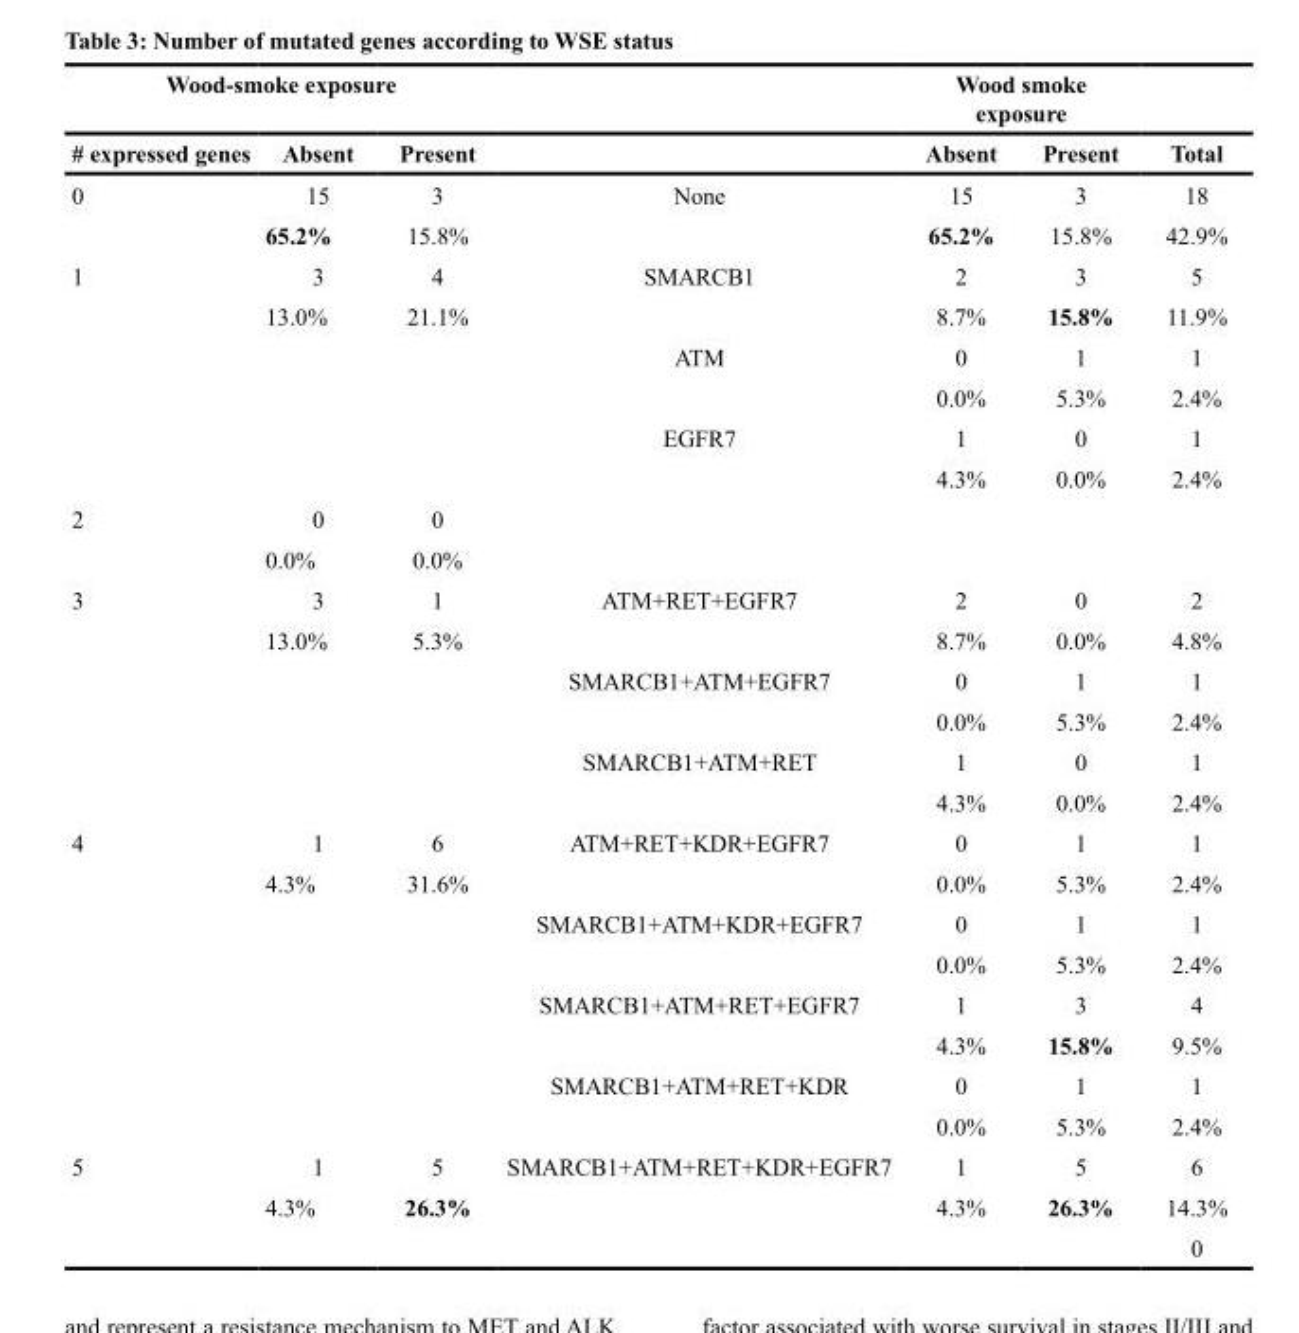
<table><thead><tr><td colspan="3">Wood-smoke exposure</td><td rowspan="2"></td><td colspan="2">Wood smoke exposure</td><td rowspan="2">Total</td></tr><tr><td># expressed genes</td><td>Absent</td><td>Present</td><td>Absent</td><td>Present</td></tr></thead><tbody><tr><td rowspan="2">0</td><td>15</td><td>3</td><td rowspan="2">None</td><td>15</td><td>3</td><td>18</td></tr><tr><td>65.2%</td><td>15.8%</td><td>65.2%</td><td>15.8%</td><td>42.9%</td></tr><tr><td rowspan="6">1</td><td>3</td><td>4</td><td rowspan="2">SMARCB1</td><td>2</td><td>3</td><td>5</td></tr><tr><td>13.0%</td><td>21.1%</td><td>8.7%</td><td>15.8%</td><td>11.9%</td></tr><tr><td></td><td></td><td rowspan="2">ATM</td><td>0</td><td>1</td><td>1</td></tr><tr><td></td><td></td><td>0.0%</td><td>5.3%</td><td>2.4%</td></tr><tr><td></td><td></td><td rowspan="2">EGFR7</td><td>1</td><td>0</td><td>1</td></tr><tr><td></td><td></td><td>4.3%</td><td>0.0%</td><td>2.4%</td></tr><tr><td rowspan="2">2</td><td>0</td><td>0</td><td></td><td></td><td></td><td></td></tr><tr><td>0.0%</td><td>0.0%</td><td></td><td></td><td></td><td></td></tr><tr><td rowspan="6">3</td><td>3</td><td>1</td><td rowspan="2">ATM+RET+EGFR7</td><td>2</td><td>0</td><td>2</td></tr><tr><td>13.0%</td><td>5.3%</td><td>8.7%</td><td>0.0%</td><td>4.8%</td></tr><tr><td></td><td></td><td rowspan="2">SMARCB1+ATM+EGFR7</td><td>0</td><td>1</td><td>1</td></tr><tr><td></td><td></td><td>0.0%</td><td>5.3%</td><td>2.4%</td></tr><tr><td></td><td></td><td rowspan="2">SMARCB1+ATM+RET</td><td>1</td><td>0</td><td>1</td></tr><tr><td></td><td></td><td>4.3%</td><td>0.0%</td><td>2.4%</td></tr><tr><td rowspan="8">4</td><td>1</td><td>6</td><td rowspan="2">ATM+RET+KDR+EGFR7</td><td>0</td><td>1</td><td>1</td></tr><tr><td>4.3%</td><td>31.6%</td><td>0.0%</td><td>5.3%</td><td>2.4%</td></tr><tr><td></td><td></td><td rowspan="2">SMARCB1+ATM+KDR+EGFR7</td><td>0</td><td>1</td><td>1</td></tr><tr><td></td><td></td><td>0.0%</td><td>5.3%</td><td>2.4%</td></tr><tr><td></td><td></td><td rowspan="2">SMARCB1+ATM+RET+EGFR7</td><td>1</td><td>3</td><td>4</td></tr><tr><td></td><td></td><td>4.3%</td><td>15.8%</td><td>9.5%</td></tr><tr><td></td><td></td><td rowspan="2">SMARCB1+ATM+RET+KDR</td><td>0</td><td>1</td><td>1</td></tr><tr><td></td><td></td><td>0.0%</td><td>5.3%</td><td>2.4%</td></tr><tr><td rowspan="3">5</td><td>1</td><td>5</td><td rowspan="2">SMARCB1+ATM+RET+KDR+EGFR7</td><td>1</td><td>5</td><td>6</td></tr><tr><td>4.3%</td><td>26.3%</td><td>4.3%</td><td>26.3%</td><td>14.3%</td></tr><tr><td></td><td></td><td></td><td></td><td></td><td>0</td></tr></tbody></table>